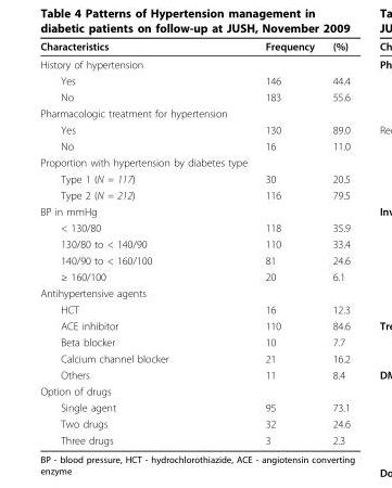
<table><thead><tr><td>Characteristics</td><td>Frequency</td><td>(%)</td></tr></thead><tbody><tr><td colspan="3">History of hypertension</td></tr><tr><td>Yes</td><td>146</td><td>44.4</td></tr><tr><td>No</td><td>183</td><td>55.6</td></tr><tr><td colspan="3">Pharmacologic treatment for hypertension</td></tr><tr><td>Yes</td><td>130</td><td>89.0</td></tr><tr><td>No</td><td>16</td><td>11.0</td></tr><tr><td colspan="3">Proportion with hypertension by diabetes type</td></tr><tr><td>Type 1 (N = 117)</td><td>30</td><td>20.5</td></tr><tr><td>Type 2 (N = 212)</td><td>116</td><td>79.5</td></tr><tr><td colspan="3">BP in mmHg</td></tr><tr><td>&lt; 130/80</td><td>118</td><td>35.9</td></tr><tr><td>130/80 to &lt; 140/90</td><td>110</td><td>33.4</td></tr><tr><td>140/90 to &lt; 160/100</td><td>81</td><td>24.6</td></tr><tr><td>≥ 160/100</td><td>20</td><td>6.1</td></tr><tr><td colspan="3">Antihypertensive agents</td></tr><tr><td>HCT</td><td>16</td><td>12.3</td></tr><tr><td>ACE inhibitor</td><td>110</td><td>84.6</td></tr><tr><td>Beta blocker</td><td>10</td><td>7.7</td></tr><tr><td>Calcium channel blocker</td><td>21</td><td>16.2</td></tr><tr><td>Others</td><td>11</td><td>8.4</td></tr><tr><td colspan="3">Option of drugs</td></tr><tr><td>Single agent</td><td>95</td><td>73.1</td></tr><tr><td>Two drugs</td><td>32</td><td>24.6</td></tr><tr><td>Three drugs</td><td>3</td><td>2.3</td></tr></tbody></table>